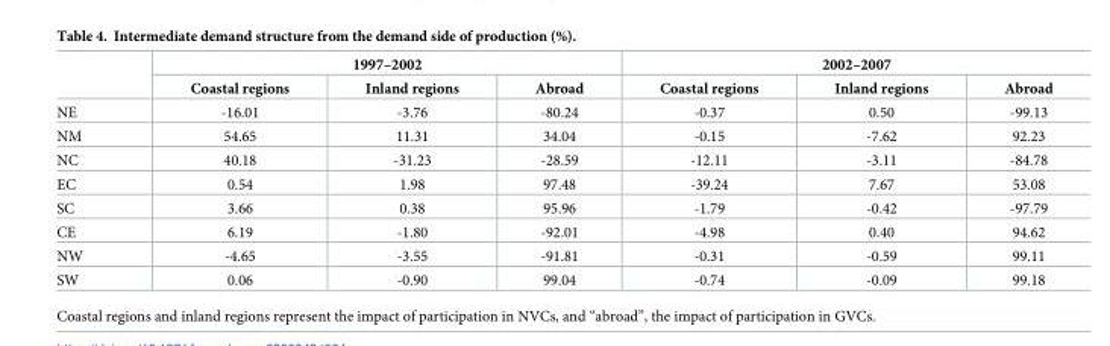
<table><thead><tr><td rowspan="2"></td><td colspan="3">1997–2002</td><td colspan="3">2002–2007</td></tr><tr><td>Coastal regions</td><td>Inland regions</td><td>Abroad</td><td>Coastal regions</td><td>Inland regions</td><td>Abroad</td></tr></thead><tbody><tr><td>NE</td><td>-16.01</td><td>-3.76</td><td>-80.24</td><td>-0.37</td><td>0.50</td><td>-99.13</td></tr><tr><td>NM</td><td>54.65</td><td>11.31</td><td>34.04</td><td>-0.15</td><td>-7.62</td><td>92.23</td></tr><tr><td>NC</td><td>40.18</td><td>-31.23</td><td>-28.59</td><td>-12.11</td><td>-3.11</td><td>-84.78</td></tr><tr><td>EC</td><td>0.54</td><td>1.98</td><td>97.48</td><td>-39.24</td><td>7.67</td><td>53.08</td></tr><tr><td>SC</td><td>3.66</td><td>0.38</td><td>95.96</td><td>-1.79</td><td>-0.42</td><td>-97.79</td></tr><tr><td>CE</td><td>6.19</td><td>-1.80</td><td>-92.01</td><td>-4.98</td><td>0.40</td><td>94.62</td></tr><tr><td>NW</td><td>-4.65</td><td>-3.55</td><td>-91.81</td><td>-0.31</td><td>-0.59</td><td>99.11</td></tr><tr><td>SW</td><td>0.06</td><td>-0.90</td><td>99.04</td><td>-0.74</td><td>-0.09</td><td>99.18</td></tr></tbody></table>